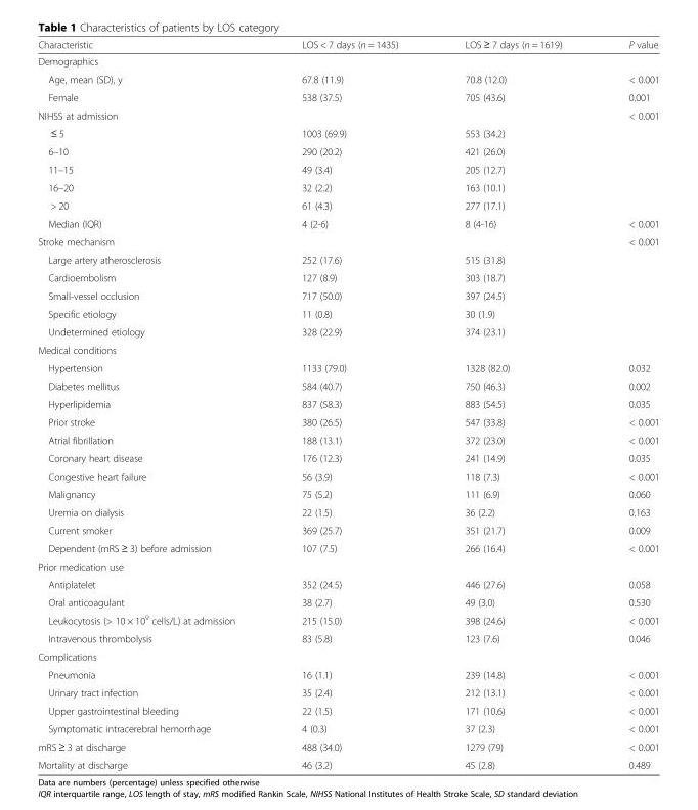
<table><thead><tr><td>Characteristic</td><td>LOS &lt; 7 days (n = 1435)</td><td>LOS ≥ 7 days (n = 1619)</td><td>P value</td></tr></thead><tbody><tr><td colspan="4">Demographics</td></tr><tr><td>Age, mean (SD), y</td><td>67.8 (11.9)</td><td>70.8 (12.0)</td><td>&lt; 0.001</td></tr><tr><td>Female</td><td>538 (37.5)</td><td>705 (43.6)</td><td>0.001</td></tr><tr><td>NIHSS at admission</td><td></td><td></td><td>&lt; 0.001</td></tr><tr><td>≤ 5</td><td>1003 (69.9)</td><td>553 (34.2)</td><td></td></tr><tr><td>6–10</td><td>290 (20.2)</td><td>421 (26.0)</td><td></td></tr><tr><td>11–15</td><td>49 (3.4)</td><td>205 (12.7)</td><td></td></tr><tr><td>16–20</td><td>32 (2.2)</td><td>163 (10.1)</td><td></td></tr><tr><td>&gt; 20</td><td>61 (4.3)</td><td>277 (17.1)</td><td></td></tr><tr><td>Median (IQR)</td><td>4 (2-6)</td><td>8 (4-16)</td><td>&lt; 0.001</td></tr><tr><td>Stroke mechanism</td><td></td><td></td><td>&lt; 0.001</td></tr><tr><td>Large artery atherosclerosis</td><td>252 (17.6)</td><td>515 (31.8)</td><td></td></tr><tr><td>Cardioembolism</td><td>127 (8.9)</td><td>303 (18.7)</td><td></td></tr><tr><td>Small-vessel occlusion</td><td>717 (50.0)</td><td>397 (24.5)</td><td></td></tr><tr><td>Specific etiology</td><td>11 (0.8)</td><td>30 (1.9)</td><td></td></tr><tr><td>Undetermined etiology</td><td>328 (22.9)</td><td>374 (23.1)</td><td></td></tr><tr><td colspan="4">Medical conditions</td></tr><tr><td>Hypertension</td><td>1133 (79.0)</td><td>1328 (82.0)</td><td>0.032</td></tr><tr><td>Diabetes mellitus</td><td>584 (40.7)</td><td>750 (46.3)</td><td>0.002</td></tr><tr><td>Hyperlipidemia</td><td>837 (58.3)</td><td>883 (54.5)</td><td>0.035</td></tr><tr><td>Prior stroke</td><td>380 (26.5)</td><td>547 (33.8)</td><td>&lt; 0.001</td></tr><tr><td>Atrial fibrillation</td><td>188 (13.1)</td><td>372 (23.0)</td><td>&lt; 0.001</td></tr><tr><td>Coronary heart disease</td><td>176 (12.3)</td><td>241 (14.9)</td><td>0.035</td></tr><tr><td>Congestive heart failure</td><td>56 (3.9)</td><td>118 (7.3)</td><td>&lt; 0.001</td></tr><tr><td>Malignancy</td><td>75 (5.2)</td><td>111 (6.9)</td><td>0.060</td></tr><tr><td>Uremia on dialysis</td><td>22 (1.5)</td><td>36 (2.2)</td><td>0.163</td></tr><tr><td>Current smoker</td><td>369 (25.7)</td><td>351 (21.7)</td><td>0.009</td></tr><tr><td>Dependent (mRS ≥ 3) before admission</td><td>107 (7.5)</td><td>266 (16.4)</td><td>&lt; 0.001</td></tr><tr><td colspan="4">Prior medication use</td></tr><tr><td>Antiplatelet</td><td>352 (24.5)</td><td>446 (27.6)</td><td>0.058</td></tr><tr><td>Oral anticoagulant</td><td>38 (2.7)</td><td>49 (3.0)</td><td>0.530</td></tr><tr><td>Leukocytosis (&gt; 10 × 10<sup>9</sup> cells/L) at admission</td><td>215 (15.0)</td><td>398 (24.6)</td><td>&lt; 0.001</td></tr><tr><td>Intravenous thrombolysis</td><td>83 (5.8)</td><td>123 (7.6)</td><td>0.046</td></tr><tr><td colspan="4">Complications</td></tr><tr><td>Pneumonia</td><td>16 (1.1)</td><td>239 (14.8)</td><td>&lt; 0.001</td></tr><tr><td>Urinary tract infection</td><td>35 (2.4)</td><td>212 (13.1)</td><td>&lt; 0.001</td></tr><tr><td>Upper gastrointestinal bleeding</td><td>22 (1.5)</td><td>171 (10.6)</td><td>&lt; 0.001</td></tr><tr><td>Symptomatic intracerebral hemorrhage</td><td>4 (0.3)</td><td>37 (2.3)</td><td>&lt; 0.001</td></tr><tr><td>mRS ≥ 3 at discharge</td><td>488 (34.0)</td><td>1279 (79)</td><td>&lt; 0.001</td></tr><tr><td>Mortality at discharge</td><td>46 (3.2)</td><td>45 (2.8)</td><td>0.489</td></tr></tbody></table>